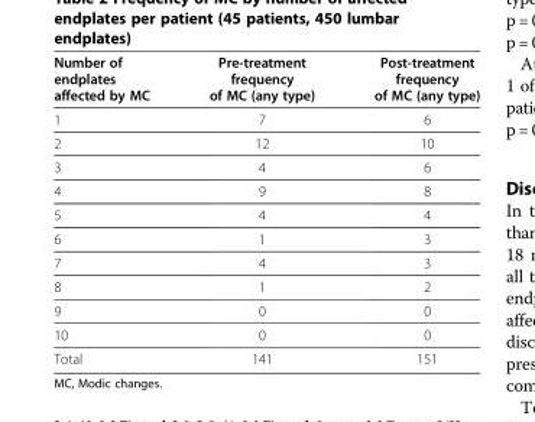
<table><thead><tr><td>Number of endplates affected by MC</td><td>Pre-treatment frequency of MC (any type)</td><td>Post-treatment frequency of MC (any type)</td></tr></thead><tbody><tr><td>1</td><td>7</td><td>6</td></tr><tr><td>2</td><td>12</td><td>10</td></tr><tr><td>3</td><td>4</td><td>6</td></tr><tr><td>4</td><td>9</td><td>8</td></tr><tr><td>5</td><td>4</td><td>4</td></tr><tr><td>6</td><td>1</td><td>3</td></tr><tr><td>7</td><td>4</td><td>3</td></tr><tr><td>8</td><td>1</td><td>2</td></tr><tr><td>9</td><td>0</td><td>0</td></tr><tr><td>10</td><td>0</td><td>0</td></tr><tr><td>Total</td><td>141</td><td>151</td></tr></tbody></table>